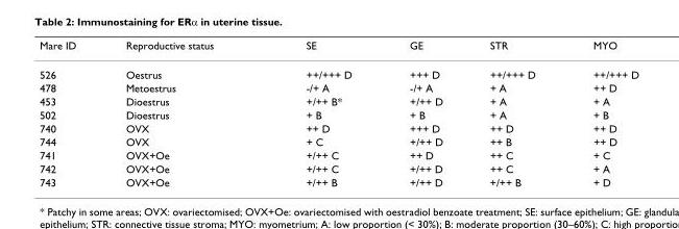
<table><thead><tr><td>Mare ID</td><td>Reproductive status</td><td>SE</td><td>GE</td><td>STR</td><td>MYO</td></tr></thead><tbody><tr><td>526</td><td>Oestrus</td><td>++/+++ D</td><td>+++ D</td><td>++/+++ D</td><td>++/+++ D</td></tr><tr><td>478</td><td>Metoestrus</td><td>-/+ A</td><td>-/+ A</td><td>+ A</td><td>++ D</td></tr><tr><td>453</td><td>Dioestrus</td><td>+/++ B*</td><td>+/++ D</td><td>+ A</td><td>+ A</td></tr><tr><td>502</td><td>Dioestrus</td><td>+ B</td><td>+ B</td><td>+ A</td><td>+ B</td></tr><tr><td>740</td><td>OVX</td><td>++ D</td><td>+++ D</td><td>++ D</td><td>++ D</td></tr><tr><td>744</td><td>OVX</td><td>+ C</td><td>+/++ D</td><td>++ B</td><td>++ D</td></tr><tr><td>741</td><td>OVX+Oe</td><td>+/++ C</td><td>++ D</td><td>++ C</td><td>+ C</td></tr><tr><td>742</td><td>OVX+Oe</td><td>+/++ C</td><td>+/++ D</td><td>++ C</td><td>+ A</td></tr><tr><td>743</td><td>OVX+Oe</td><td>+/++ B</td><td>+/++ D</td><td>+/++ B</td><td>+ D</td></tr></tbody></table>